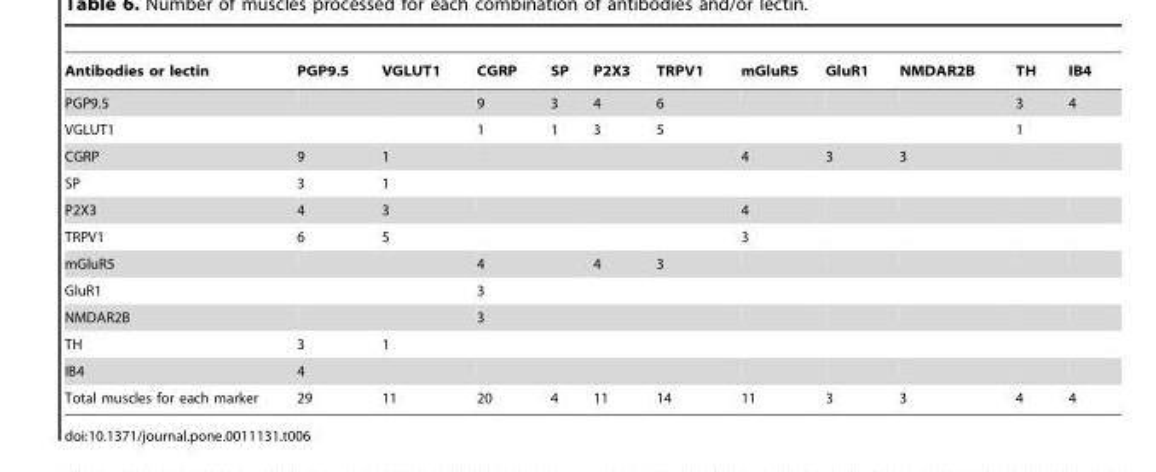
<table><thead><tr><td>Antibodies or lectin</td><td>PGP9.5</td><td>VGLUT1</td><td>CGRP</td><td>SP</td><td>P2X3</td><td>TRPV1</td><td>mGluR5</td><td>GluR1</td><td>NMDAR2B</td><td>TH</td><td>IB4</td></tr></thead><tbody><tr><td>PGP9.5</td><td></td><td></td><td>9</td><td>3</td><td>4</td><td>6</td><td></td><td></td><td></td><td>3</td><td>4</td></tr><tr><td>VGLUT1</td><td></td><td></td><td>1</td><td>1</td><td>3</td><td>5</td><td></td><td></td><td></td><td>1</td><td></td></tr><tr><td>CGRP</td><td>9</td><td>1</td><td></td><td></td><td></td><td></td><td>4</td><td>3</td><td>3</td><td></td><td></td></tr><tr><td>SP</td><td>3</td><td>1</td><td></td><td></td><td></td><td></td><td></td><td></td><td></td><td></td><td></td></tr><tr><td>P2X3</td><td>4</td><td>3</td><td></td><td></td><td></td><td></td><td>4</td><td></td><td></td><td></td><td></td></tr><tr><td>TRPV1</td><td>6</td><td>5</td><td></td><td></td><td></td><td></td><td>3</td><td></td><td></td><td></td><td></td></tr><tr><td>mGluR5</td><td></td><td></td><td>4</td><td></td><td>4</td><td>3</td><td></td><td></td><td></td><td></td><td></td></tr><tr><td>GluR1</td><td></td><td></td><td>3</td><td></td><td></td><td></td><td></td><td></td><td></td><td></td><td></td></tr><tr><td>NMDAR2B</td><td></td><td></td><td>3</td><td></td><td></td><td></td><td></td><td></td><td></td><td></td><td></td></tr><tr><td>TH</td><td>3</td><td>1</td><td></td><td></td><td></td><td></td><td></td><td></td><td></td><td></td><td></td></tr><tr><td>IB4</td><td>4</td><td></td><td></td><td></td><td></td><td></td><td></td><td></td><td></td><td></td><td></td></tr><tr><td>Total muscles for each marker</td><td>29</td><td>11</td><td>20</td><td>4</td><td>11</td><td>14</td><td>11</td><td>3</td><td>3</td><td>4</td><td>4</td></tr></tbody></table>